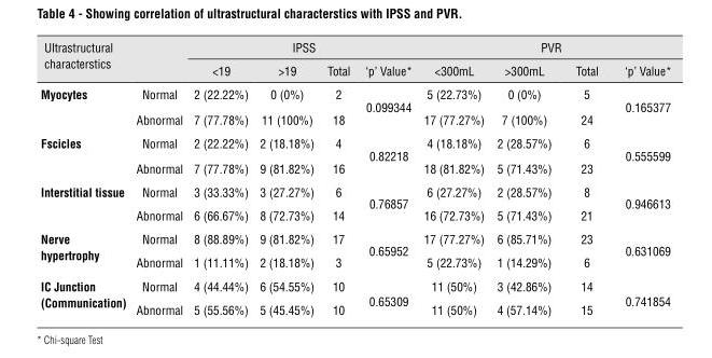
<table><thead><tr><td rowspan="2">Ultrastructural characterstics</td><td rowspan="2"></td><td colspan="4">IPSS</td><td colspan="4">PVR</td></tr><tr><td>&lt;19</td><td>&gt;19</td><td>Total</td><td>‘p’ Value*</td><td>&lt;300mL</td><td>&gt;300mL</td><td>Total</td><td>‘p’ Value*</td></tr></thead><tbody><tr><td rowspan="2">Myocytes</td><td>Normal</td><td>2 (22.22%)</td><td>0 (0%)</td><td>2</td><td rowspan="2">0.099344</td><td>5 (22.73%)</td><td>0 (0%)</td><td>5</td><td rowspan="2">0.165377</td></tr><tr><td>Abnormal</td><td>7 (77.78%)</td><td>11 (100%)</td><td>18</td><td>17 (77.27%)</td><td>7 (100%)</td><td>24</td></tr><tr><td rowspan="2">Fscicles</td><td>Normal</td><td>2 (22.22%)</td><td>2 (18.18%)</td><td>4</td><td rowspan="2">0.82218</td><td>4 (18.18%)</td><td>2 (28.57%)</td><td>6</td><td rowspan="2">0.555599</td></tr><tr><td>Abnormal</td><td>7 (77.78%)</td><td>9 (81.82%)</td><td>16</td><td>18 (81.82%)</td><td>5 (71.43%)</td><td>23</td></tr><tr><td rowspan="2">Interstitial tissue</td><td>Normal</td><td>3 (33.33%)</td><td>3 (27.27%)</td><td>6</td><td rowspan="2">0.76857</td><td>6 (27.27%)</td><td>2 (28.57%)</td><td>8</td><td rowspan="2">0.946613</td></tr><tr><td>Abnormal</td><td>6 (66.67%)</td><td>8 (72.73%)</td><td>14</td><td>16 (72.73%)</td><td>5 (71.43%)</td><td>21</td></tr><tr><td rowspan="2">Nerve hypertrophy</td><td>Normal</td><td>8 (88.89%)</td><td>9 (81.82%)</td><td>17</td><td rowspan="2">0.65952</td><td>17 (77.27%)</td><td>6 (85.71%)</td><td>23</td><td rowspan="2">0.631069</td></tr><tr><td>Abnormal</td><td>1 (11.11%)</td><td>2 (18.18%)</td><td>3</td><td>5 (22.73%)</td><td>1 (14.29%)</td><td>6</td></tr><tr><td rowspan="2">IC Junction (Communication)</td><td>Normal</td><td>4 (44.44%)</td><td>6 (54.55%)</td><td>10</td><td rowspan="2">0.65309</td><td>11 (50%)</td><td>3 (42.86%)</td><td>14</td><td rowspan="2">0.741854</td></tr><tr><td>Abnormal</td><td>5 (55.56%)</td><td>5 (45.45%)</td><td>10</td><td>11 (50%)</td><td>4 (57.14%)</td><td>15</td></tr></tbody></table>